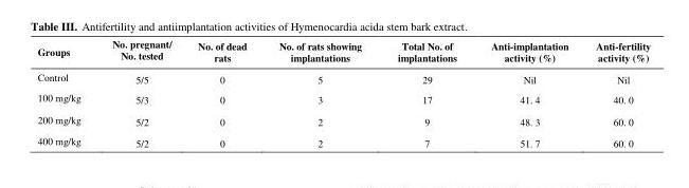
<table><thead><tr><td>Groups</td><td>No. pregnant/ No. tested</td><td>No. of dead rats</td><td>No. of rats showing implantations</td><td>Total No. of implantations</td><td>Anti-implantation activity (%)</td><td>Anti-fertility activity (%)</td></tr></thead><tbody><tr><td>Control</td><td>5/5</td><td>0</td><td>5</td><td>29</td><td>Nil</td><td>Nil</td></tr><tr><td>100 mg/kg</td><td>5/3</td><td>0</td><td>3</td><td>17</td><td>41. 4</td><td>40. 0</td></tr><tr><td>200 mg/kg</td><td>5/2</td><td>0</td><td>2</td><td>9</td><td>48. 3</td><td>60. 0</td></tr><tr><td>400 mg/kg</td><td>5/2</td><td>0</td><td>2</td><td>7</td><td>51. 7</td><td>60. 0</td></tr></tbody></table>